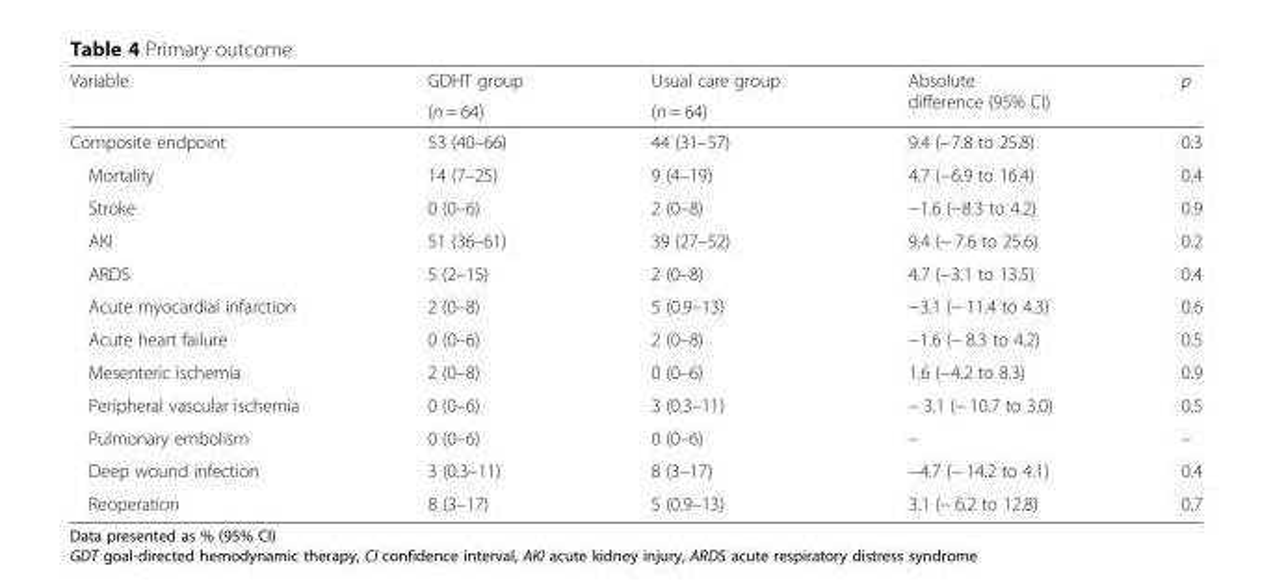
<table><thead><tr><td rowspan="2">Variable</td><td rowspan="2">GDHT group (n = 64)</td><td rowspan="2">Usual care group (n = 64)</td><td rowspan="2">Absolute difference (95% CI)</td><td rowspan="2">p</td></tr><tr></tr></thead><tbody><tr><td>Composite endpoint</td><td>53 (40–66)</td><td>44 (31–57)</td><td>9.4 (−7.8 to 25.8)</td><td>0.3</td></tr><tr><td>Mortality</td><td>14 (7–25)</td><td>9 (4–19)</td><td>4.7 (−6.9 to 16.4)</td><td>0.4</td></tr><tr><td>Stroke</td><td>0 (0–6)</td><td>2 (0–8)</td><td>−1.6 (−8.3 to 4.2)</td><td>0.9</td></tr><tr><td>AKI</td><td>51 (36–61)</td><td>39 (27–52)</td><td>9.4 (− 7.6 to 25.6)</td><td>0.2</td></tr><tr><td>ARDS</td><td>5 (2–15)</td><td>2 (0–8)</td><td>4.7 (−3.1 to 13.5)</td><td>0.4</td></tr><tr><td>Acute myocardial infarction</td><td>2 (0–8)</td><td>5 (0.9–13)</td><td>−3.1 (− 11.4 to 4.3)</td><td>0.6</td></tr><tr><td>Acute heart failure</td><td>0 (0–6)</td><td>2 (0–8)</td><td>−1.6 (− 8.3 to 4.2)</td><td>0.5</td></tr><tr><td>Mesenteric ischemia</td><td>2 (0–8)</td><td>0 (0–6)</td><td>1.6 (−4.2 to 8.3)</td><td>0.9</td></tr><tr><td>Peripheral vascular ischemia</td><td>0 (0–6)</td><td>3 (0.3–11)</td><td>− 3.1 (− 10.7 to 3.0)</td><td>0.5</td></tr><tr><td>Pulmonary embolism</td><td>0 (0–6)</td><td>0 (0–6)</td><td>–</td><td>–</td></tr><tr><td>Deep wound infection</td><td>3 (0.3–11)</td><td>8 (3–17)</td><td>−4.7 (− 14.2 to 4.1)</td><td>0.4</td></tr><tr><td>Reoperation</td><td>8 (3–17)</td><td>5 (0.9–13)</td><td>3.1 (− 6.2 to 12.8)</td><td>0.7</td></tr></tbody></table>